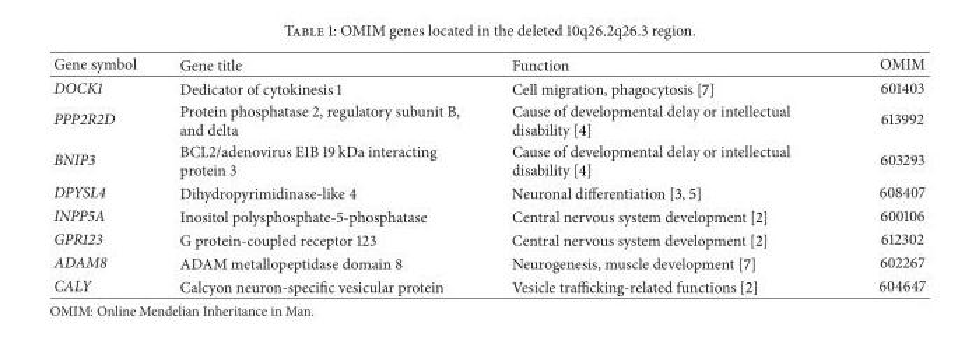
<table><thead><tr><td>Gene symbol</td><td>Gene title</td><td>Function</td><td>OMIM</td></tr></thead><tbody><tr><td>DOCK1</td><td>Dedicator of cytokinesis 1</td><td>Cell migration, phagocytosis [7]</td><td>601403</td></tr><tr><td>PPP2R2D</td><td>Protein phosphatase 2, regulatory subunit B, and delta</td><td>Cause of developmental delay or intellectual disability [4]</td><td>613992</td></tr><tr><td>BNIP3</td><td>BCL2/adenovirus E1B 19 kDa interacting protein 3</td><td>Cause of developmental delay or intellectual disability [4]</td><td>603293</td></tr><tr><td>DPYSL4</td><td>Dihydropyrimidinase-like 4</td><td>Neuronal differentiation [3, 5]</td><td>608407</td></tr><tr><td>INPP5A</td><td>Inositol polysphosphate-5-phosphatase</td><td>Central nervous system development [2]</td><td>600106</td></tr><tr><td>GPR123</td><td>G protein-coupled receptor 123</td><td>Central nervous system development [2]</td><td>612302</td></tr><tr><td>ADAM8</td><td>ADAM metallopeptidase domain 8</td><td>Neurogenesis, muscle development [7]</td><td>602267</td></tr><tr><td>CALY</td><td>Calcyon neuron-specific vesicular protein</td><td>Vesicle trafficking-related functions [2]</td><td>604647</td></tr></tbody></table>